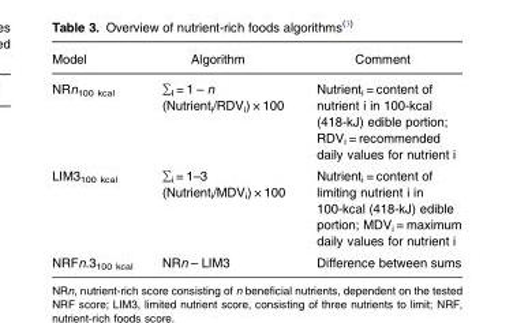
<table><thead><tr><td>Model</td><td>Algorithm</td><td>Comment</td></tr></thead><tbody><tr><td>NRn<sub>100 kcal</sub></td><td>∑<sub>I</sub> = 1 – n (Nutrient<sub>i</sub>/RDV<sub>i</sub>) × 100</td><td>Nutrient<sub>i</sub> = content of nutrient i in 100-kcal (418-kJ) edible portion; RDV<sub>i</sub> = recommended daily values for nutrient i</td></tr><tr><td>LIM3<sub>100 kcal</sub></td><td>∑<sub>i</sub> = 1–3 (Nutrient<sub>i</sub>/MDV<sub>i</sub>) × 100</td><td>Nutrient<sub>i</sub> = content of limiting nutrient i in 100-kcal (418-kJ) edible portion; MDV<sub>i</sub> = maximum daily values for nutrient i</td></tr><tr><td>NRFn.3<sub>100 kcal</sub></td><td>NRn – LIM3</td><td>Difference between sums</td></tr></tbody></table>